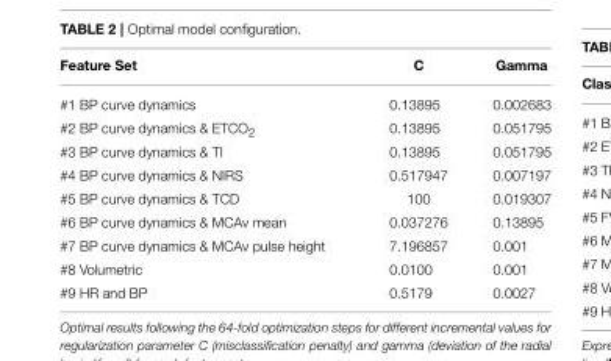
<table><thead><tr><td>Feature Set</td><td>C</td><td>Gamma</td></tr></thead><tbody><tr><td>#1 BP curve dynamics</td><td>0.13895</td><td>0.002683</td></tr><tr><td>#2 BP curve dynamics &amp; ETCO<sub>2</sub></td><td>0.13895</td><td>0.051795</td></tr><tr><td>#3 BP curve dynamics &amp; TI</td><td>0.13895</td><td>0.051795</td></tr><tr><td>#4 BP curve dynamics &amp; NIRS</td><td>0.517947</td><td>0.007197</td></tr><tr><td>#5 BP curve dynamics &amp; TCD</td><td>100</td><td>0.019307</td></tr><tr><td>#6 BP curve dynamics &amp; MCAv mean</td><td>0.037276</td><td>0.13895</td></tr><tr><td>#7 BP curve dynamics &amp; MCAv pulse height</td><td>7.196857</td><td>0.001</td></tr><tr><td>#8 Volumetric</td><td>0.0100</td><td>0.001</td></tr><tr><td>#9 HR and BP</td><td>0.5179</td><td>0.0027</td></tr></tbody></table>